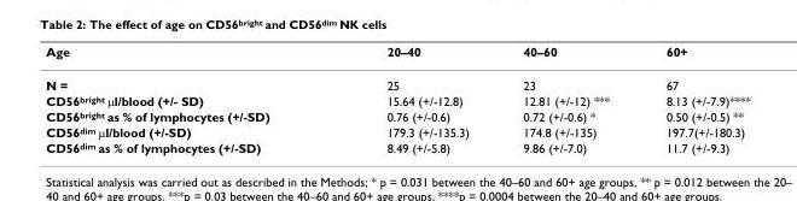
<table><thead><tr><td>Age</td><td>20–40</td><td>40–60</td><td>60+</td></tr></thead><tbody><tr><td>N =</td><td>25</td><td>23</td><td>67</td></tr><tr><td>CD56<sup>bright</sup> µl/blood (+/- SD)</td><td>15.64 (+/-12.8)</td><td>12.81 (+/-12) ***</td><td>8.13 (+/-7.9)****</td></tr><tr><td>CD56<sup>bright</sup> as % of lymphocytes (+/-SD)</td><td>0.76 (+/-0.6)</td><td>0.72 (+/-0.6) *</td><td>0.50 (+/-0.5) **</td></tr><tr><td>CD56<sup>dim</sup> µl/blood (+/-SD)</td><td>179.3 (+/-135.3)</td><td>174.8 (+/-135)</td><td>197.7(+/-180.3)</td></tr><tr><td>CD56<sup>dim</sup> as % of lymphocytes (+/-SD)</td><td>8.49 (+/-5.8)</td><td>9.86 (+/-7.0)</td><td>11.7 (+/-9.3)</td></tr></tbody></table>